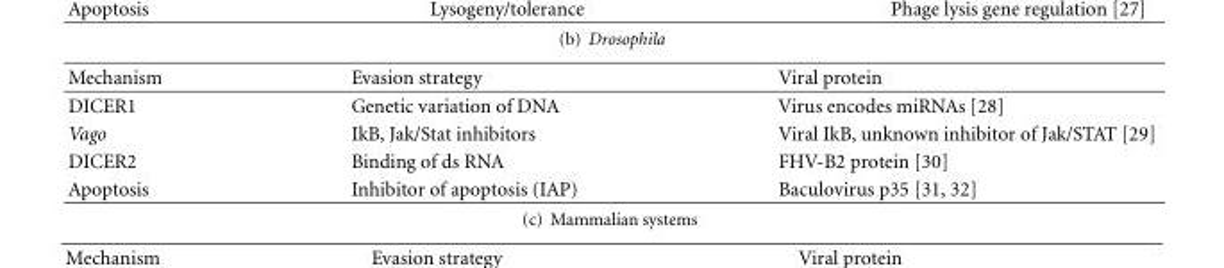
<table><thead><tr><td>Mechanism</td><td>Evasion strategy</td><td>Viral protein</td></tr></thead><tbody><tr><td>DICER1</td><td>Genetic variation of DNA</td><td>Virus encodes miRNAs [28]</td></tr><tr><td>Vago</td><td>IkB, Jak/Stat inhibitors</td><td>Viral IkB, unknown inhibitor of Jak/STAT [29]</td></tr><tr><td>DICER2</td><td>Binding of ds RNA</td><td>FHV-B2 protein [30]</td></tr><tr><td>Apoptosis</td><td>Inhibitor of apoptosis (IAP)</td><td>Baculovirus p35 [31, 32]</td></tr></tbody></table>